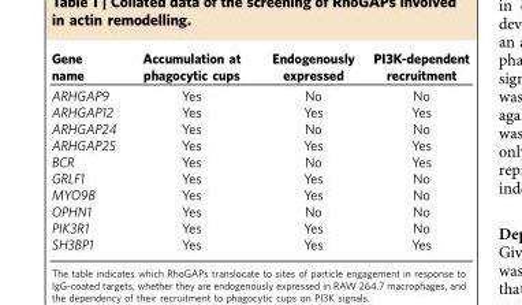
<table><thead><tr><td>Gene name</td><td>Accumulation at phagocytic cups</td><td>Endogenously expressed</td><td>PI3K-dependent recruitment</td></tr></thead><tbody><tr><td>ARHGAP9</td><td>Yes</td><td>No</td><td>No</td></tr><tr><td>ARHGAP12</td><td>Yes</td><td>Yes</td><td>Yes</td></tr><tr><td>ARHGAP24</td><td>Yes</td><td>No</td><td>No</td></tr><tr><td>ARHGAP25</td><td>Yes</td><td>Yes</td><td>Yes</td></tr><tr><td>BCR</td><td>Yes</td><td>No</td><td>Yes</td></tr><tr><td>GRLF1</td><td>Yes</td><td>Yes</td><td>No</td></tr><tr><td>MYO9B</td><td>Yes</td><td>Yes</td><td>No</td></tr><tr><td>OPHN1</td><td>Yes</td><td>No</td><td>No</td></tr><tr><td>PIK3R1</td><td>Yes</td><td>Yes</td><td>No</td></tr><tr><td>SH3BP1</td><td>Yes</td><td>Yes</td><td>Yes</td></tr></tbody></table>